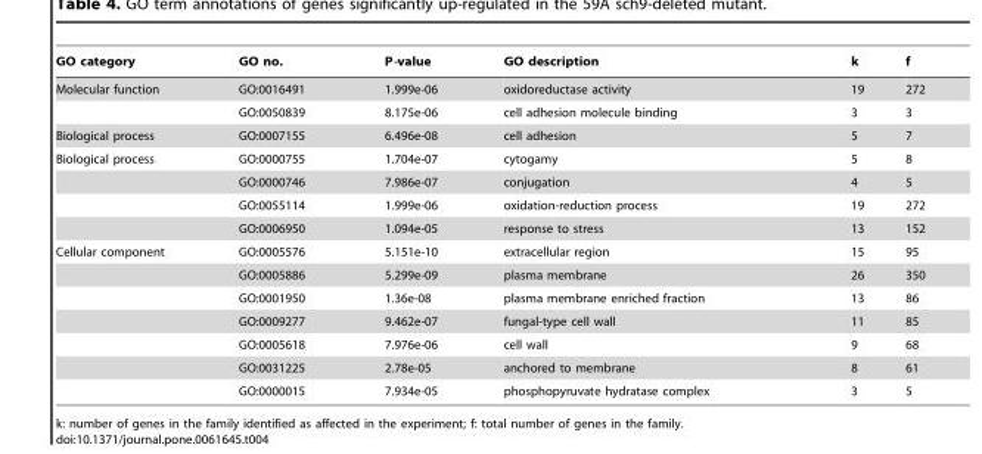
<table><thead><tr><td>GO category</td><td>GO no.</td><td>P-value</td><td>GO description</td><td>k</td><td>f</td></tr></thead><tbody><tr><td rowspan="2">Molecular function</td><td>GO:0016491</td><td>1.999e-06</td><td>oxidoreductase activity</td><td>19</td><td>272</td></tr><tr><td>GO:0050839</td><td>8.175e-06</td><td>cell adhesion molecule binding</td><td>3</td><td>3</td></tr><tr><td>Biological process</td><td>GO:0007155</td><td>6.496e-08</td><td>cell adhesion</td><td>5</td><td>7</td></tr><tr><td rowspan="4">Biological process</td><td>GO:0000755</td><td>1.704e-07</td><td>cytogamy</td><td>5</td><td>8</td></tr><tr><td>GO:0000746</td><td>7.986e-07</td><td>conjugation</td><td>4</td><td>5</td></tr><tr><td>GO:0055114</td><td>1.999e-06</td><td>oxidation-reduction process</td><td>19</td><td>272</td></tr><tr><td>GO:0006950</td><td>1.094e-05</td><td>response to stress</td><td>13</td><td>152</td></tr><tr><td rowspan="7">Cellular component</td><td>GO:0005576</td><td>5.151e-10</td><td>extracellular region</td><td>15</td><td>95</td></tr><tr><td>GO:0005886</td><td>5.299e-09</td><td>plasma membrane</td><td>26</td><td>350</td></tr><tr><td>GO:0001950</td><td>1.36e-08</td><td>plasma membrane enriched fraction</td><td>13</td><td>86</td></tr><tr><td>GO:0009277</td><td>9.462e-07</td><td>fungal-type cell wall</td><td>11</td><td>85</td></tr><tr><td>GO:0005618</td><td>7.976e-06</td><td>cell wall</td><td>9</td><td>68</td></tr><tr><td>GO:0031225</td><td>2.78e-05</td><td>anchored to membrane</td><td>8</td><td>61</td></tr><tr><td>GO:0000015</td><td>7.934e-05</td><td>phosphopyruvate hydratase complex</td><td>3</td><td>5</td></tr></tbody></table>